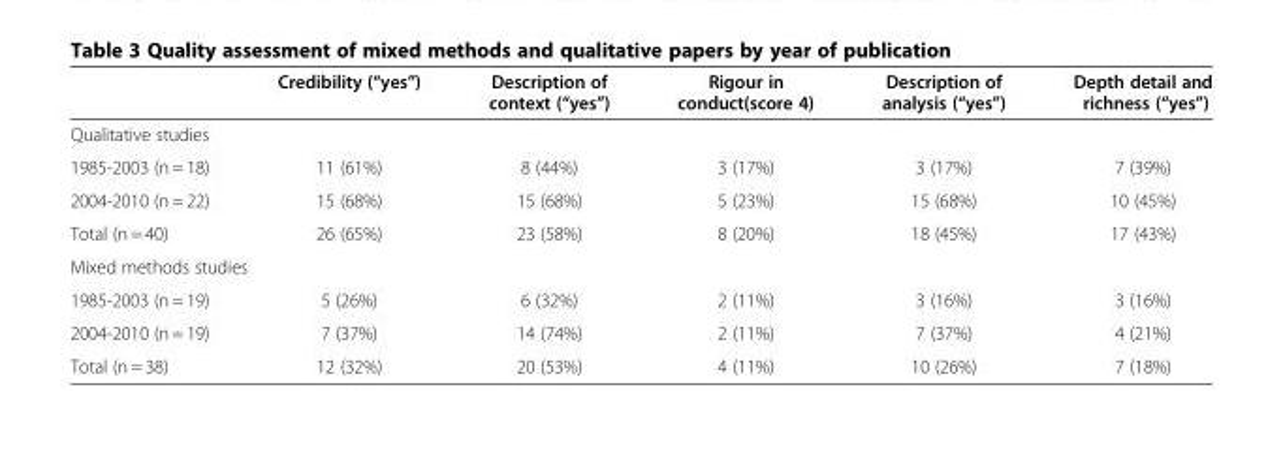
<table><thead><tr><td></td><td>Credibility (“yes”)</td><td>Description of context (“yes”)</td><td>Rigour in conduct(score 4)</td><td>Description of analysis (“yes”)</td><td>Depth detail and richness (“yes”)</td></tr></thead><tbody><tr><td colspan="6">Qualitative studies</td></tr><tr><td>1985-2003 (n = 18)</td><td>11 (61%)</td><td>8 (44%)</td><td>3 (17%)</td><td>3 (17%)</td><td>7 (39%)</td></tr><tr><td>2004-2010 (n = 22)</td><td>15 (68%)</td><td>15 (68%)</td><td>5 (23%)</td><td>15 (68%)</td><td>10 (45%)</td></tr><tr><td>Total (n = 40)</td><td>26 (65%)</td><td>23 (58%)</td><td>8 (20%)</td><td>18 (45%)</td><td>17 (43%)</td></tr><tr><td colspan="6">Mixed methods studies</td></tr><tr><td>1985-2003 (n = 19)</td><td>5 (26%)</td><td>6 (32%)</td><td>2 (11%)</td><td>3 (16%)</td><td>3 (16%)</td></tr><tr><td>2004-2010 (n = 19)</td><td>7 (37%)</td><td>14 (74%)</td><td>2 (11%)</td><td>7 (37%)</td><td>4 (21%)</td></tr><tr><td>Total (n = 38)</td><td>12 (32%)</td><td>20 (53%)</td><td>4 (11%)</td><td>10 (26%)</td><td>7 (18%)</td></tr></tbody></table>